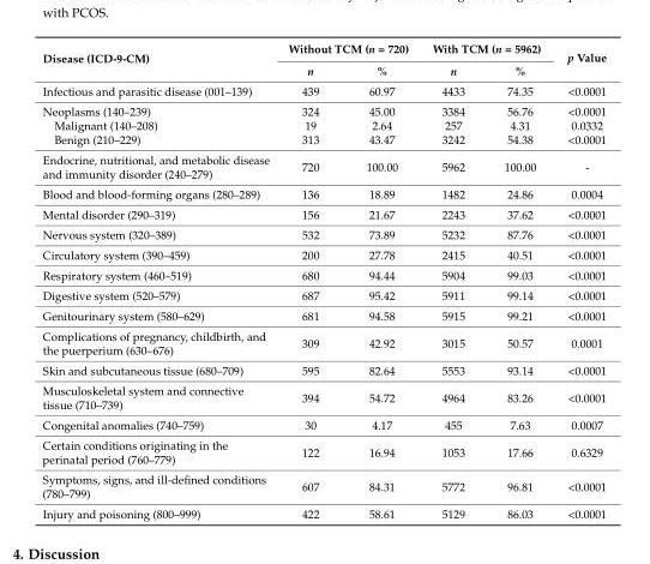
<table><thead><tr><td rowspan="2">Disease (ICD-9-CM)</td><td colspan="2">Without TCM (n = 720)</td><td colspan="2">With TCM (n = 5962)</td><td rowspan="2">p Value</td></tr><tr><td>n</td><td>%</td><td>n</td><td>%</td></tr></thead><tbody><tr><td>Infectious and parasitic disease (001–139)</td><td>439</td><td>60.97</td><td>4433</td><td>74.35</td><td>&lt;0.0001</td></tr><tr><td>Neoplasms (140–239)</td><td>324</td><td>45.00</td><td>3384</td><td>56.76</td><td>&lt;0.0001</td></tr><tr><td>Malignant (140–208)</td><td>19</td><td>2.64</td><td>257</td><td>4.31</td><td>0.0332</td></tr><tr><td>Benign (210–229)</td><td>313</td><td>43.47</td><td>3242</td><td>54.38</td><td>&lt;0.0001</td></tr><tr><td>Endocrine, nutritional, and metabolic disease and immunity disorder (240–279)</td><td>720</td><td>100.00</td><td>5962</td><td>100.00</td><td>-</td></tr><tr><td>Blood and blood-forming organs (280–289)</td><td>136</td><td>18.89</td><td>1482</td><td>24.86</td><td>0.0004</td></tr><tr><td>Mental disorder (290–319)</td><td>156</td><td>21.67</td><td>2243</td><td>37.62</td><td>&lt;0.0001</td></tr><tr><td>Nervous system (320–389)</td><td>532</td><td>73.89</td><td>5232</td><td>87.76</td><td>&lt;0.0001</td></tr><tr><td>Circulatory system (390–459)</td><td>200</td><td>27.78</td><td>2415</td><td>40.51</td><td>&lt;0.0001</td></tr><tr><td>Respiratory system (460–519)</td><td>680</td><td>94.44</td><td>5904</td><td>99.03</td><td>&lt;0.0001</td></tr><tr><td>Digestive system (520–579)</td><td>687</td><td>95.42</td><td>5911</td><td>99.14</td><td>&lt;0.0001</td></tr><tr><td>Genitourinary system (580–629)</td><td>681</td><td>94.58</td><td>5915</td><td>99.21</td><td>&lt;0.0001</td></tr><tr><td>Complications of pregnancy, childbirth, and the puerperium (630–676)</td><td>309</td><td>42.92</td><td>3015</td><td>50.57</td><td>0.0001</td></tr><tr><td>Skin and subcutaneous tissue (680–709)</td><td>595</td><td>82.64</td><td>5553</td><td>93.14</td><td>&lt;0.0001</td></tr><tr><td>Musculoskeletal system and connective tissue (710–739)</td><td>394</td><td>54.72</td><td>4964</td><td>83.26</td><td>&lt;0.0001</td></tr><tr><td>Congenital anomalies (740–759)</td><td>30</td><td>4.17</td><td>455</td><td>7.63</td><td>0.0007</td></tr><tr><td>Certain conditions originating in the perinatal period (760–779)</td><td>122</td><td>16.94</td><td>1053</td><td>17.66</td><td>0.6329</td></tr><tr><td>Symptoms, signs, and ill-defined conditions (780–799)</td><td>607</td><td>84.31</td><td>5772</td><td>96.81</td><td>&lt;0.0001</td></tr><tr><td>Injury and poisoning (800–999)</td><td>422</td><td>58.61</td><td>5129</td><td>86.03</td><td>&lt;0.0001</td></tr></tbody></table>